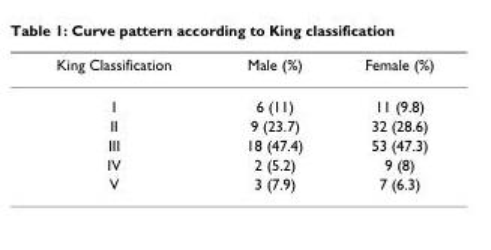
<table><thead><tr><td>King Classification</td><td>Male (%)</td><td>Female (%)</td></tr></thead><tbody><tr><td>I</td><td>6 (11)</td><td>11 (9.8)</td></tr><tr><td>II</td><td>9 (23.7)</td><td>32 (28.6)</td></tr><tr><td>III</td><td>18 (47.4)</td><td>53 (47.3)</td></tr><tr><td>IV</td><td>2 (5.2)</td><td>9 (8)</td></tr><tr><td>V</td><td>3 (7.9)</td><td>7 (6.3)</td></tr></tbody></table>